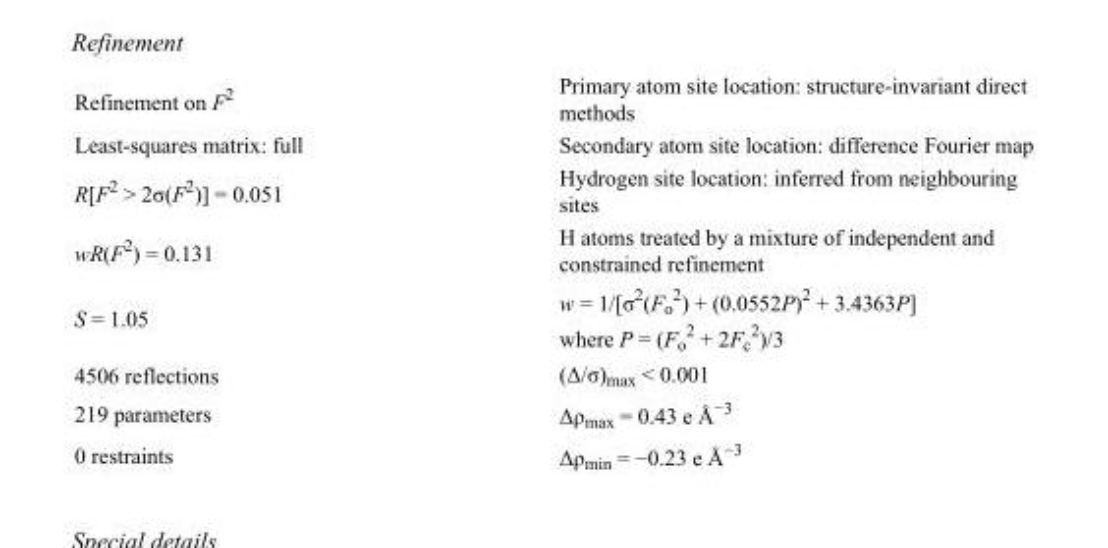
<table><tbody><tr><td>Refinement on F<sup>2</sup></td><td>Primary atom site location: structure-invariant direct methods</td></tr><tr><td>Least-squares matrix: full</td><td>Secondary atom site location: difference Fourier map</td></tr><tr><td>R[F<sup>2</sup> &gt; 2σ(F<sup>2</sup>)] = 0.051</td><td>Hydrogen site location: inferred from neighbouring sites</td></tr><tr><td>wR(F<sup>2</sup>) = 0.131</td><td>H atoms treated by a mixture of independent and constrained refinement</td></tr><tr><td>S = 1.05</td><td>w = 1/[σ<sup>2</sup>(F<sub>o</sub> <sup>2</sup>) + (0.0552P)<sup>2</sup> + 3.4363P] where P = (F<sub>o</sub> <sup>2</sup> + 2F<sub>c</sub> <sup>2</sup>)/3</td></tr><tr><td>4506 reflections</td><td>(Δ/σ)<sub>max</sub> &lt; 0.001</td></tr><tr><td>219 parameters</td><td>Δρ<sub>max</sub> = 0.43 e Å<sup>−3</sup></td></tr><tr><td>0 restraints</td><td>Δρ<sub>min</sub> = −0.23 e Å<sup>−3</sup></td></tr></tbody></table>